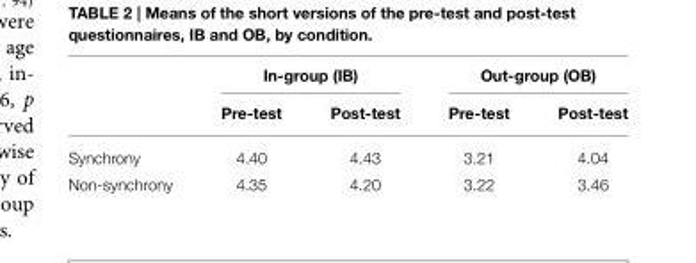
<table><thead><tr><td rowspan="2"></td><td colspan="2">In-group (IB)</td><td colspan="2">Out-group (OB)</td></tr><tr><td>Pre-test</td><td>Post-test</td><td>Pre-test</td><td>Post-test</td></tr></thead><tbody><tr><td>Synchrony</td><td>4.40</td><td>4.43</td><td>3.21</td><td>4.04</td></tr><tr><td>Non-synchrony</td><td>4.35</td><td>4.20</td><td>3.22</td><td>3.46</td></tr></tbody></table>